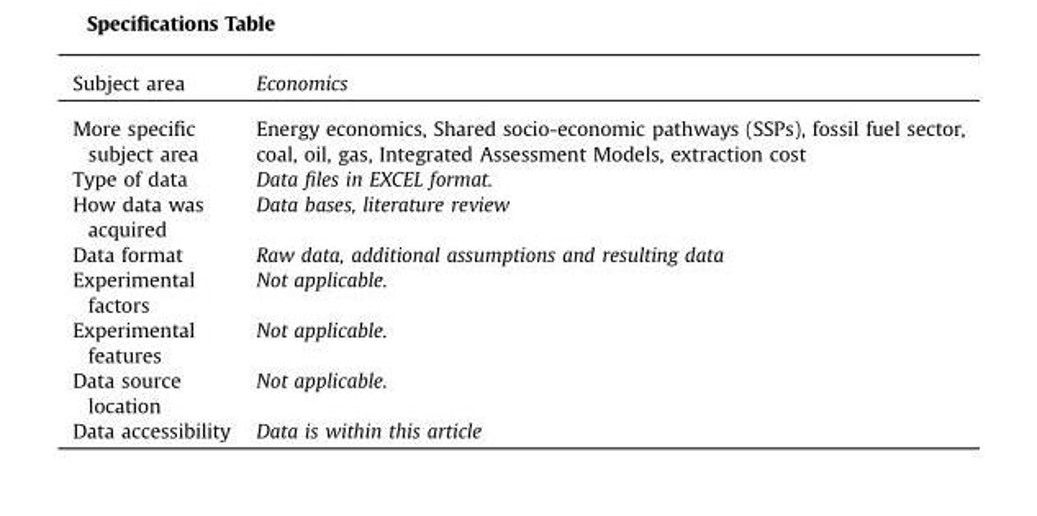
<table><thead><tr><td>Subject area</td><td>Economics</td></tr></thead><tbody><tr><td>More specific subject area</td><td>Energy economics, Shared socio-economic pathways (SSPs), fossil fuel sector, coal, oil, gas, Integrated Assessment Models, extraction cost</td></tr><tr><td>Type of data</td><td>Data files in EXCEL format.</td></tr><tr><td>How data was acquired</td><td>Data bases, literature review</td></tr><tr><td>Data format</td><td>Raw data, additional assumptions and resulting data</td></tr><tr><td>Experimental factors</td><td>Not applicable.</td></tr><tr><td>Experimental features</td><td>Not applicable.</td></tr><tr><td>Data source location</td><td>Not applicable.</td></tr><tr><td>Data accessibility</td><td>Data is within this article</td></tr></tbody></table>